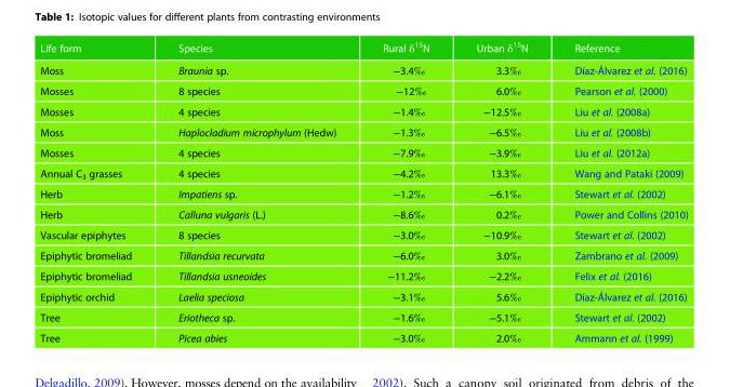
<table><thead><tr><td>Life form</td><td>Species</td><td>Rural δ<sup>15</sup>N</td><td>Urban δ<sup>15</sup>N</td><td>Reference</td></tr></thead><tbody><tr><td>Moss</td><td>Braunia sp.</td><td>−3.4‰</td><td>3.3‰</td><td>Díaz-Álvarez et al. (2016)</td></tr><tr><td>Mosses</td><td>8 species</td><td>−12‰</td><td>6.0‰</td><td>Pearson et al. (2000)</td></tr><tr><td>Mosses</td><td>4 species</td><td>−1.4‰</td><td>−12.5‰</td><td>Liu et al. (2008a)</td></tr><tr><td>Moss</td><td>Haplocladium microphylum (Hedw)</td><td>−1.3‰</td><td>−6.5‰</td><td>Liu et al. (2008b)</td></tr><tr><td>Mosses</td><td>4 species</td><td>−7.9‰</td><td>−3.9‰</td><td>Liu et al. (2012a)</td></tr><tr><td>Annual C<sub>3</sub> grasses</td><td>4 species</td><td>−4.2‰</td><td>13.3‰</td><td>Wang and Pataki (2009)</td></tr><tr><td>Herb</td><td>Impatiens sp.</td><td>−1.2‰</td><td>−6.1‰</td><td>Stewart et al. (2002)</td></tr><tr><td>Herb</td><td>Calluna vulgaris (L.)</td><td>−8.6‰</td><td>0.2‰</td><td>Power and Collins (2010)</td></tr><tr><td>Vascular epiphytes</td><td>8 species</td><td>−3.0‰</td><td>−10.9‰</td><td>Stewart et al. (2002)</td></tr><tr><td>Epiphytic bromeliad</td><td>Tillandsia recurvata</td><td>−6.0‰</td><td>3.0‰</td><td>Zambrano et al. (2009)</td></tr><tr><td>Epiphytic bromeliad</td><td>Tillandsia usneoides</td><td>−11.2‰</td><td>−2.2‰</td><td>Felix et al. (2016)</td></tr><tr><td>Epiphytic orchid</td><td>Laelia speciosa</td><td>−3.1‰</td><td>5.6‰</td><td>Díaz-Álvarez et al. (2016)</td></tr><tr><td>Tree</td><td>Eriotheca sp.</td><td>−1.6‰</td><td>−5.1‰</td><td>Stewart et al. (2002)</td></tr><tr><td>Tree</td><td>Picea abies</td><td>−3.0‰</td><td>2.0‰</td><td>Ammann et al. (1999)</td></tr></tbody></table>